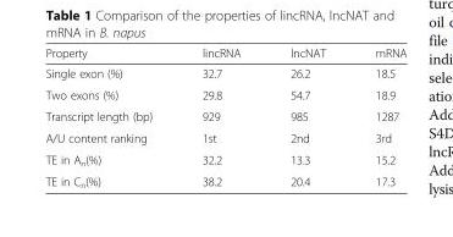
<table><thead><tr><td>Property</td><td>lincRNA</td><td>lncNAT</td><td>mRNA</td></tr></thead><tbody><tr><td>Single exon (%)</td><td>32.7</td><td>26.2</td><td>18.5</td></tr><tr><td>Two exons (%)</td><td>29.8</td><td>54.7</td><td>18.9</td></tr><tr><td>Transcript length (bp)</td><td>929</td><td>985</td><td>1287</td></tr><tr><td>A/U content ranking</td><td>1st</td><td>2nd</td><td>3rd</td></tr><tr><td>TE in A<sub>n</sub>(%)</td><td>32.2</td><td>13.3</td><td>15.2</td></tr><tr><td>TE in C<sub>n</sub>(%)</td><td>38.2</td><td>20.4</td><td>17.3</td></tr></tbody></table>